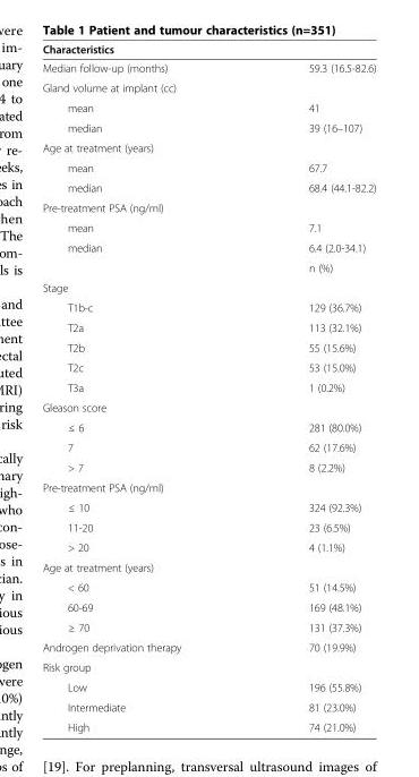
<table><thead><tr><td>Characteristics</td><td></td></tr></thead><tbody><tr><td>Median follow-up (months)</td><td>59.3 (16.5-82.6)</td></tr><tr><td colspan="2">Gland volume at implant (cc)</td></tr><tr><td>mean</td><td>41</td></tr><tr><td>median</td><td>39 (16–107)</td></tr><tr><td colspan="2">Age at treatment (years)</td></tr><tr><td>mean</td><td>67.7</td></tr><tr><td>median</td><td>68.4 (44.1-82.2)</td></tr><tr><td colspan="2">Pre-treatment PSA (ng/ml)</td></tr><tr><td>mean</td><td>7.1</td></tr><tr><td rowspan="2">median</td><td>6.4 (2.0-34.1)</td></tr><tr><td>n (%)</td></tr><tr><td colspan="2">Stage</td></tr><tr><td>T1b-c</td><td>129 (36.7%)</td></tr><tr><td>T2a</td><td>113 (32.1%)</td></tr><tr><td>T2b</td><td>55 (15.6%)</td></tr><tr><td>T2c</td><td>53 (15.0%)</td></tr><tr><td>T3a</td><td>1 (0.2%)</td></tr><tr><td colspan="2">Gleason score</td></tr><tr><td>≤ 6</td><td>281 (80.0%)</td></tr><tr><td>7</td><td>62 (17.6%)</td></tr><tr><td>&gt; 7</td><td>8 (2.2%)</td></tr><tr><td colspan="2">Pre-treatment PSA (ng/ml)</td></tr><tr><td>≤ 10</td><td>324 (92.3%)</td></tr><tr><td>11-20</td><td>23 (6.5%)</td></tr><tr><td>&gt; 20</td><td>4 (1.1%)</td></tr><tr><td colspan="2">Age at treatment (years)</td></tr><tr><td>&lt; 60</td><td>51 (14.5%)</td></tr><tr><td>60-69</td><td>169 (48.1%)</td></tr><tr><td>≥ 70</td><td>131 (37.3%)</td></tr><tr><td>Androgen deprivation therapy</td><td>70 (19.9%)</td></tr><tr><td colspan="2">Risk group</td></tr><tr><td>Low</td><td>196 (55.8%)</td></tr><tr><td>Intermediate</td><td>81 (23.0%)</td></tr><tr><td>High</td><td>74 (21.0%)</td></tr></tbody></table>